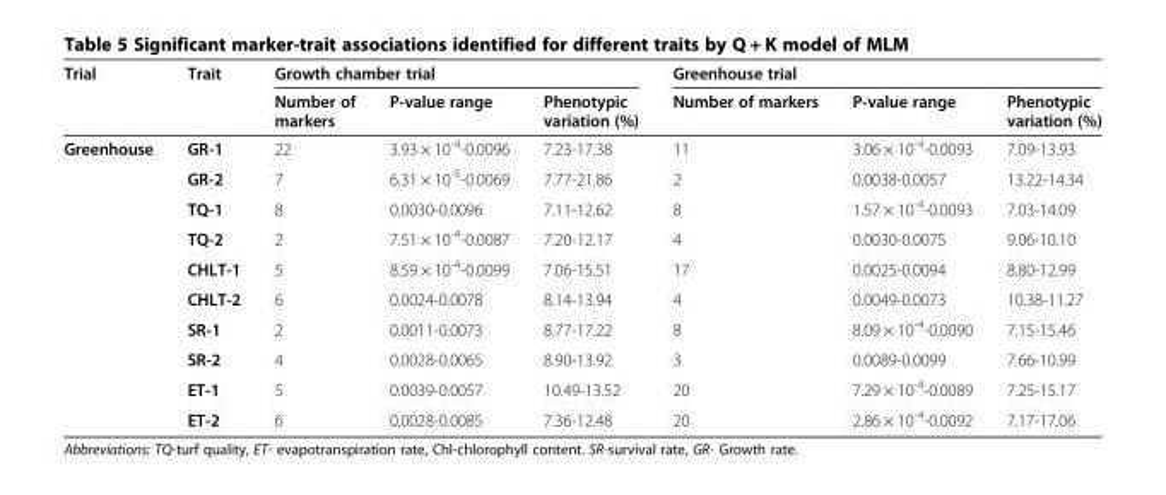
<table><thead><tr><td rowspan="2">Trial</td><td rowspan="2">Trait</td><td colspan="3">Growth chamber trial</td><td colspan="3">Greenhouse trial</td></tr><tr><td>Number of markers</td><td>P-value range</td><td>Phenotypic variation (%)</td><td>Number of markers</td><td>P-value range</td><td>Phenotypic variation (%)</td></tr></thead><tbody><tr><td rowspan="10">Greenhouse</td><td>GR-1</td><td>22</td><td>3.93 × 10<sup>-4</sup>-0.0096</td><td>7.23-17.38</td><td>11</td><td>3.06 × 10<sup>-4</sup>-0.0093</td><td>7.09-13.93</td></tr><tr><td>GR-2</td><td>7</td><td>6.31 × 10<sup>-5</sup>-0.0069</td><td>7.77-21.86</td><td>2</td><td>0.0038-0.0057</td><td>13.22-14.34</td></tr><tr><td>TQ-1</td><td>8</td><td>0.0030-0.0096</td><td>7.11-12.62</td><td>8</td><td>1.57 × 10<sup>-4</sup>-0.0093</td><td>7.03-14.09</td></tr><tr><td>TQ-2</td><td>2</td><td>7.51 × 10<sup>-4</sup>-0.0087</td><td>7.20-12.17</td><td>4</td><td>0.0030-0.0075</td><td>9.06-10.10</td></tr><tr><td>CHLT-1</td><td>5</td><td>8.59 × 10<sup>-4</sup>-0.0099</td><td>7.06-15.51</td><td>17</td><td>0.0025-0.0094</td><td>8.80-12.99</td></tr><tr><td>CHLT-2</td><td>6</td><td>0.0024-0.0078</td><td>8.14-13.94</td><td>4</td><td>0.0049-0.0073</td><td>10.38-11.27</td></tr><tr><td>SR-1</td><td>2</td><td>0.0011-0.0073</td><td>8.77-17.22</td><td>8</td><td>8.09 × 10<sup>-4</sup>-0.0090</td><td>7.15-15.46</td></tr><tr><td>SR-2</td><td>4</td><td>0.0028-0.0065</td><td>8.90-13.92</td><td>3</td><td>0.0089-0.0099</td><td>7.66-10.99</td></tr><tr><td>ET-1</td><td>5</td><td>0.0039-0.0057</td><td>10.49-13.52</td><td>20</td><td>7.29 × 10<sup>-4</sup>-0.0089</td><td>7.25-15.17</td></tr><tr><td>ET-2</td><td>6</td><td>0.0028-0.0085</td><td>7.36-12.48</td><td>20</td><td>2.86 × 10<sup>-4</sup>-0.0092</td><td>7.17-17.06</td></tr></tbody></table>